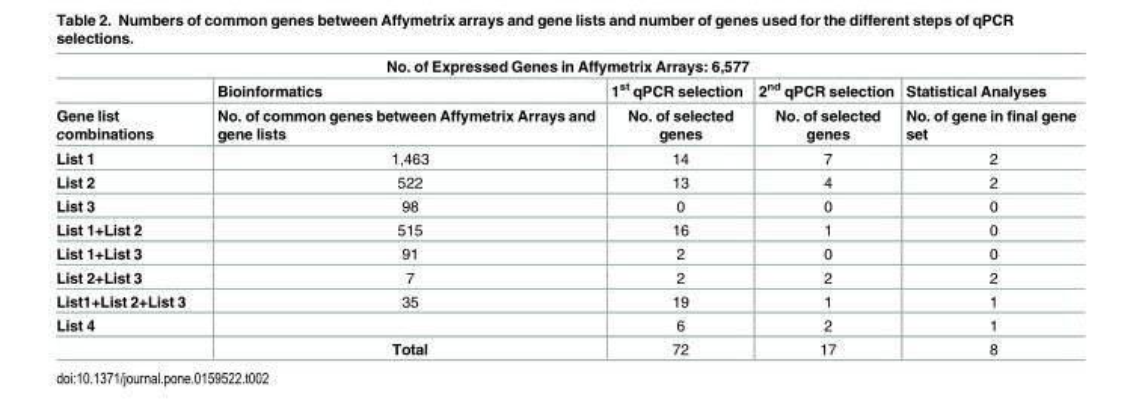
<table><thead><tr><td colspan="5">No. of Expressed Genes in Affymetrix Arrays: 6,577</td></tr><tr><td rowspan="2">Gene list combinations</td><td rowspan="2">Bioinformatics No. of common genes between Affymetrix Arrays and gene lists</td><td rowspan="2">1<sup>st</sup> qPCR selection No. of selected genes</td><td rowspan="2">2<sup>nd</sup> qPCR selection No. of selected genes</td><td rowspan="2">Statistical Analyses No. of gene in final gene set</td></tr><tr></tr></thead><tbody><tr><td>List 1</td><td>1,463</td><td>14</td><td>7</td><td>2</td></tr><tr><td>List 2</td><td>522</td><td>13</td><td>4</td><td>2</td></tr><tr><td>List 3</td><td>98</td><td>0</td><td>0</td><td>0</td></tr><tr><td>List 1+List 2</td><td>515</td><td>16</td><td>1</td><td>0</td></tr><tr><td>List 1+List 3</td><td>91</td><td>2</td><td>0</td><td>0</td></tr><tr><td>List 2+List 3</td><td>7</td><td>2</td><td>2</td><td>2</td></tr><tr><td>List1+List 2+List 3</td><td>35</td><td>19</td><td>1</td><td>1</td></tr><tr><td rowspan="2">List 4</td><td></td><td>6</td><td>2</td><td>1</td></tr><tr><td>Total</td><td>72</td><td>17</td><td>8</td></tr></tbody></table>